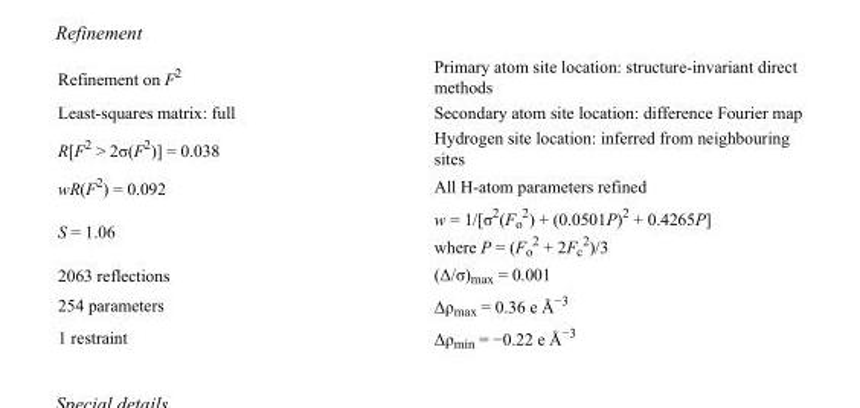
<table><tbody><tr><td>Refinement on F<sup>2</sup></td><td>Primary atom site location: structure-invariant direct methods</td></tr><tr><td>Least-squares matrix: full</td><td>Secondary atom site location: difference Fourier map</td></tr><tr><td>R[F<sup>2</sup> &gt; 2σ(F<sup>2</sup>)] = 0.038</td><td>Hydrogen site location: inferred from neighbouring sites</td></tr><tr><td>wR(F<sup>2</sup>) = 0.092</td><td>All H-atom parameters refined</td></tr><tr><td>S = 1.06</td><td>w = 1/[σ<sup>2</sup>(F<sub>o</sub> <sup>2</sup>) + (0.0501P)<sup>2</sup> + 0.4265P] where P = (F<sub>o</sub> <sup>2</sup> + 2F<sub>c</sub> <sup>2</sup>)/3</td></tr><tr><td>2063 reflections</td><td>(Δ/σ)<sub>max</sub> = 0.001</td></tr><tr><td>254 parameters</td><td>Δρ<sub>max</sub> = 0.36 e Å<sup>−3</sup></td></tr><tr><td>1 restraint</td><td>Δρ<sub>min</sub> = −0.22 e Å<sup>−3</sup></td></tr></tbody></table>